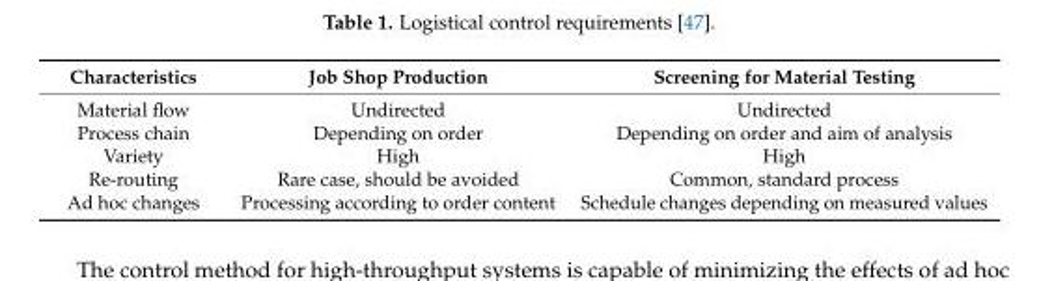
<table><thead><tr><td>Characteristics</td><td>Job Shop Production</td><td>Screening for Material Testing</td></tr></thead><tbody><tr><td>Material flow</td><td>Undirected</td><td>Undirected</td></tr><tr><td>Process chain</td><td>Depending on order</td><td>Depending on order and aim of analysis</td></tr><tr><td>Variety</td><td>High</td><td>High</td></tr><tr><td>Re-routing</td><td>Rare case, should be avoided</td><td>Common, standard process</td></tr><tr><td>Ad hoc changes</td><td>Processing according to order content</td><td>Schedule changes depending on measured values</td></tr></tbody></table>